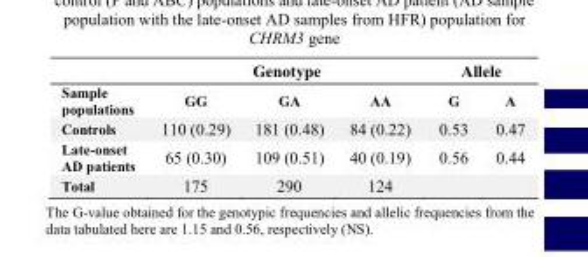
<table><thead><tr><td rowspan="2">Sample populations</td><td colspan="3">Genotype</td><td colspan="2">Allele</td></tr><tr><td>GG</td><td>GA</td><td>AA</td><td>G</td><td>A</td></tr></thead><tbody><tr><td>Controls</td><td>110 (0.29)</td><td>181 (0.48)</td><td>84 (0.22)</td><td>0.53</td><td>0.47</td></tr><tr><td>Late-onset AD patients</td><td>65 (0.30)</td><td>109 (0.51)</td><td>40 (0.19)</td><td>0.56</td><td>0.44</td></tr><tr><td>Total</td><td>175</td><td>290</td><td>124</td><td></td><td></td></tr></tbody></table>